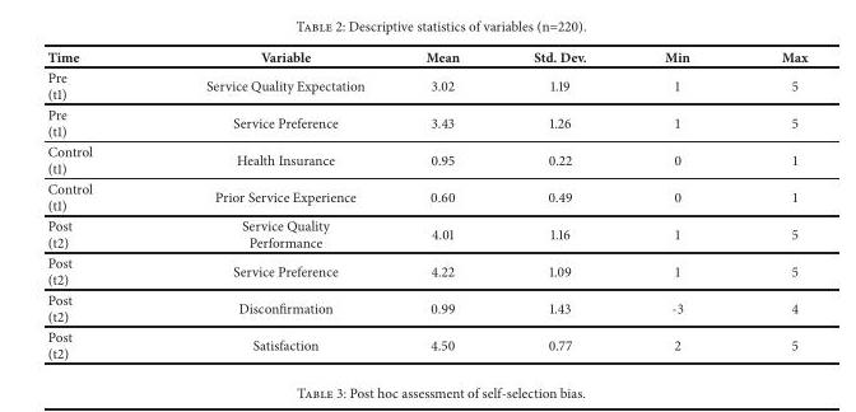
<table><thead><tr><td>Time</td><td>Variable</td><td>Mean</td><td>Std. Dev.</td><td>Min</td><td>Max</td></tr></thead><tbody><tr><td>Pre (t1)</td><td>Service Quality Expectation</td><td>3.02</td><td>1.19</td><td>1</td><td>5</td></tr><tr><td>Pre (t1)</td><td>Service Preference</td><td>3.43</td><td>1.26</td><td>1</td><td>5</td></tr><tr><td>Control (t1)</td><td>Health Insurance</td><td>0.95</td><td>0.22</td><td>0</td><td>1</td></tr><tr><td>Control (t1)</td><td>Prior Service Experience</td><td>0.60</td><td>0.49</td><td>0</td><td>1</td></tr><tr><td>Post (t2)</td><td>Service Quality Performance</td><td>4.01</td><td>1.16</td><td>1</td><td>5</td></tr><tr><td>Post (t2)</td><td>Service Preference</td><td>4.22</td><td>1.09</td><td>1</td><td>5</td></tr><tr><td>Post (t2)</td><td>Disconfirmation</td><td>0.99</td><td>1.43</td><td>-3</td><td>4</td></tr><tr><td>Post (t2)</td><td>Satisfaction</td><td>4.50</td><td>0.77</td><td>2</td><td>5</td></tr></tbody></table>